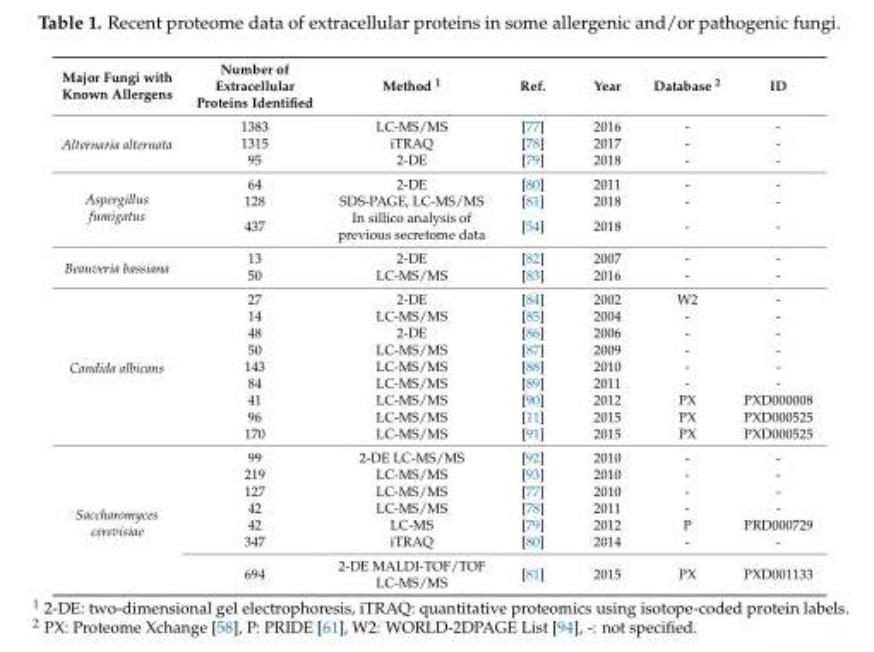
<table><thead><tr><td>Major Fungi with Known Allergens</td><td>Number of Extracellular Proteins Identified</td><td>Method <sup>1</sup></td><td>Ref.</td><td>Year</td><td>Database <sup>2</sup></td><td>ID</td></tr></thead><tbody><tr><td rowspan="3">Alternaria alternata</td><td>1383</td><td>LC-MS/MS</td><td>[77]</td><td>2016</td><td>-</td><td>-</td></tr><tr><td>1315</td><td>iTRAQ</td><td>[78]</td><td>2017</td><td>-</td><td>-</td></tr><tr><td>95</td><td>2-DE</td><td>[79]</td><td>2018</td><td>-</td><td>-</td></tr><tr><td rowspan="3">Aspergillus fumigatus</td><td>64</td><td>2-DE</td><td>[80]</td><td>2011</td><td>-</td><td>-</td></tr><tr><td>128</td><td>SDS-PAGE, LC-MS/MS</td><td>[81]</td><td>2018</td><td>-</td><td>-</td></tr><tr><td>437</td><td>In sillico analysis of previous secretome data</td><td>[54]</td><td>2018</td><td>-</td><td>-</td></tr><tr><td rowspan="2">Beauveria bassiana</td><td>13</td><td>2-DE</td><td>[82]</td><td>2007</td><td>-</td><td>-</td></tr><tr><td>50</td><td>LC-MS/MS</td><td>[83]</td><td>2016</td><td>-</td><td>-</td></tr><tr><td rowspan="9">Candida albicans</td><td>27</td><td>2-DE</td><td>[84]</td><td>2002</td><td>W2</td><td>-</td></tr><tr><td>14</td><td>LC-MS/MS</td><td>[85]</td><td>2004</td><td>-</td><td>-</td></tr><tr><td>48</td><td>2-DE</td><td>[86]</td><td>2006</td><td>-</td><td>-</td></tr><tr><td>50</td><td>LC-MS/MS</td><td>[87]</td><td>2009</td><td>-</td><td>-</td></tr><tr><td>143</td><td>LC-MS/MS</td><td>[88]</td><td>2010</td><td>-</td><td>-</td></tr><tr><td>84</td><td>LC-MS/MS</td><td>[89]</td><td>2011</td><td>-</td><td>-</td></tr><tr><td>41</td><td>LC-MS/MS</td><td>[90]</td><td>2012</td><td>PX</td><td>PXD000008</td></tr><tr><td>96</td><td>LC-MS/MS</td><td>[11]</td><td>2015</td><td>PX</td><td>PXD000525</td></tr><tr><td>170</td><td>LC-MS/MS</td><td>[91]</td><td>2015</td><td>PX</td><td>PXD000525</td></tr><tr><td rowspan="7">Saccharomyces cerevisiae</td><td>99</td><td>2-DE LC-MS/MS</td><td>[92]</td><td>2010</td><td>-</td><td>-</td></tr><tr><td>219</td><td>LC-MS/MS</td><td>[93]</td><td>2010</td><td>-</td><td>-</td></tr><tr><td>127</td><td>LC-MS/MS</td><td>[77]</td><td>2010</td><td>-</td><td>-</td></tr><tr><td>42</td><td>LC-MS/MS</td><td>[78]</td><td>2011</td><td>-</td><td>-</td></tr><tr><td>42</td><td>LC-MS</td><td>[79]</td><td>2012</td><td>P</td><td>PRD000729</td></tr><tr><td>347</td><td>iTRAQ</td><td>[80]</td><td>2014</td><td>-</td><td>-</td></tr><tr><td>694</td><td>2-DE MALDI-TOF/TOF LC-MS/MS</td><td>[81]</td><td>2015</td><td>PX</td><td>PXD001133</td></tr></tbody></table>